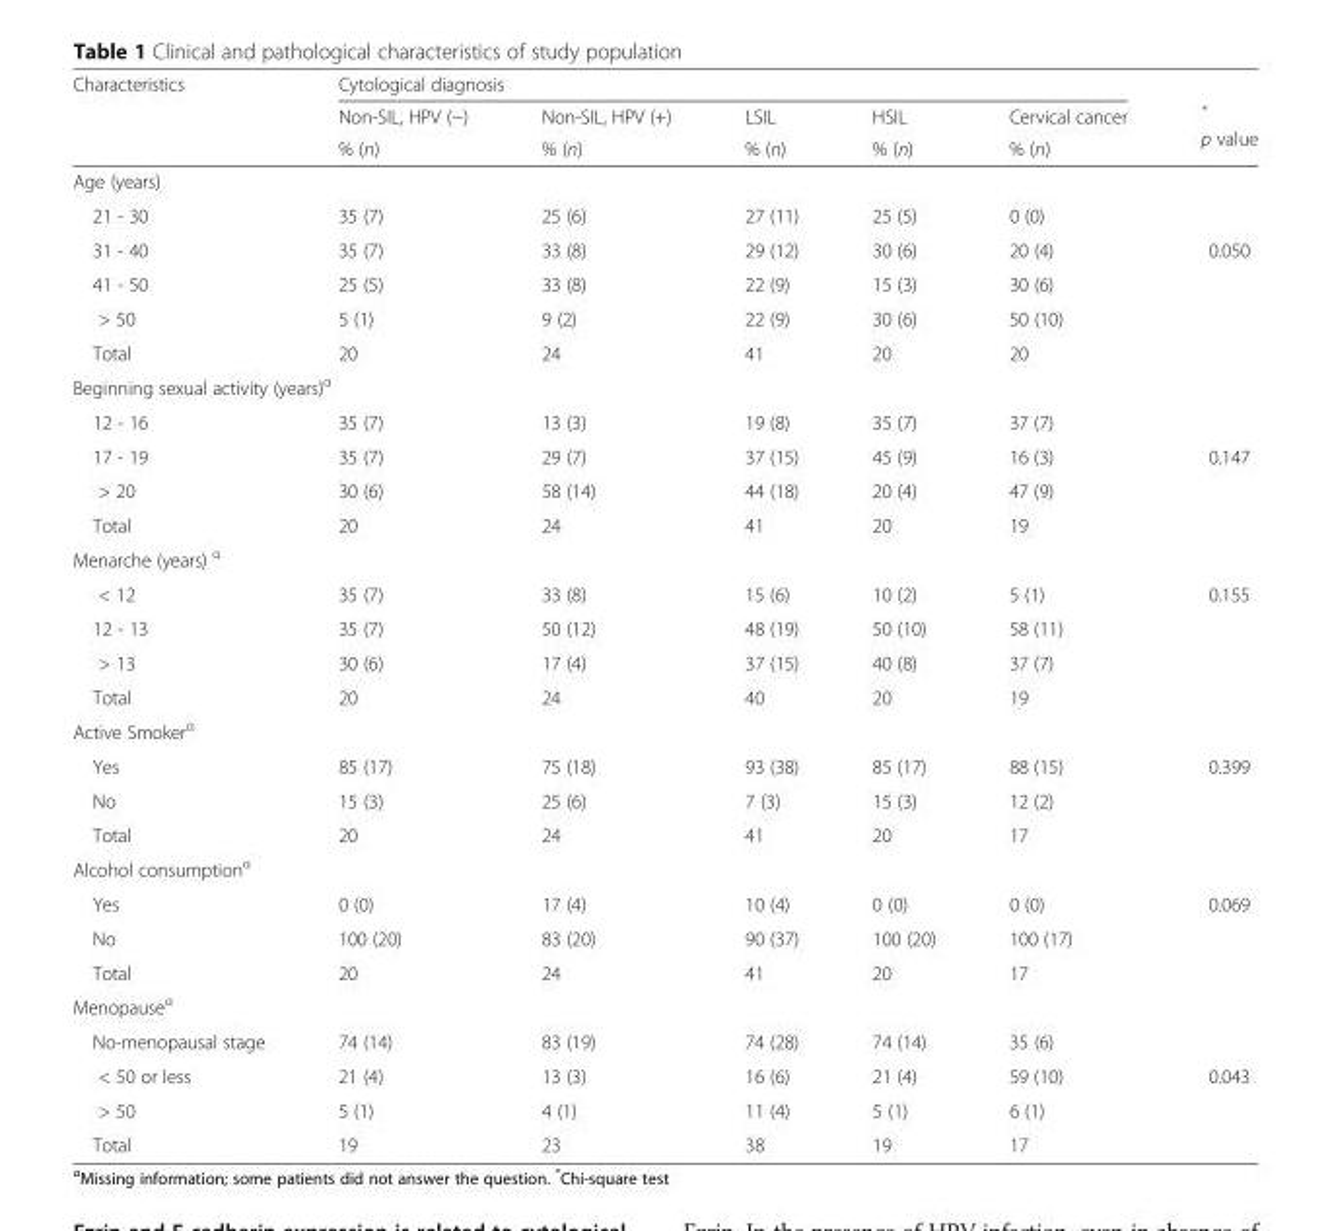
<table><thead><tr><td rowspan="3">Characteristics</td><td colspan="5">Cytological diagnosis</td><td rowspan="3">* p value</td></tr><tr><td rowspan="2">Non-SIL, HPV (−) % (n)</td><td rowspan="2">Non-SIL, HPV (+) % (n)</td><td rowspan="2">LSIL % (n)</td><td rowspan="2">HSIL % (n)</td><td rowspan="2">Cervical cancer % (n)</td></tr><tr></tr></thead><tbody><tr><td colspan="7">Age (years)</td></tr><tr><td>21 - 30</td><td>35 (7)</td><td>25 (6)</td><td>27 (11)</td><td>25 (5)</td><td>0 (0)</td><td></td></tr><tr><td>31 - 40</td><td>35 (7)</td><td>33 (8)</td><td>29 (12)</td><td>30 (6)</td><td>20 (4)</td><td>0.050</td></tr><tr><td>41 - 50</td><td>25 (5)</td><td>33 (8)</td><td>22 (9)</td><td>15 (3)</td><td>30 (6)</td><td></td></tr><tr><td>&gt; 50</td><td>5 (1)</td><td>9 (2)</td><td>22 (9)</td><td>30 (6)</td><td>50 (10)</td><td></td></tr><tr><td>Total</td><td>20</td><td>24</td><td>41</td><td>20</td><td>20</td><td></td></tr><tr><td colspan="7">Beginning sexual activity (years)<sup>α</sup></td></tr><tr><td>12 - 16</td><td>35 (7)</td><td>13 (3)</td><td>19 (8)</td><td>35 (7)</td><td>37 (7)</td><td></td></tr><tr><td>17 - 19</td><td>35 (7)</td><td>29 (7)</td><td>37 (15)</td><td>45 (9)</td><td>16 (3)</td><td>0.147</td></tr><tr><td>&gt; 20</td><td>30 (6)</td><td>58 (14)</td><td>44 (18)</td><td>20 (4)</td><td>47 (9)</td><td></td></tr><tr><td>Total</td><td>20</td><td>24</td><td>41</td><td>20</td><td>19</td><td></td></tr><tr><td colspan="7">Menarche (years) <sup>α</sup></td></tr><tr><td>&lt; 12</td><td>35 (7)</td><td>33 (8)</td><td>15 (6)</td><td>10 (2)</td><td>5 (1)</td><td rowspan="3">0.155</td></tr><tr><td>12 - 13</td><td>35 (7)</td><td>50 (12)</td><td>48 (19)</td><td>50 (10)</td><td>58 (11)</td></tr><tr><td>&gt; 13</td><td>30 (6)</td><td>17 (4)</td><td>37 (15)</td><td>40 (8)</td><td>37 (7)</td></tr><tr><td>Total</td><td>20</td><td>24</td><td>40</td><td>20</td><td>19</td><td></td></tr><tr><td colspan="7">Active Smoker<sup>α</sup></td></tr><tr><td>Yes</td><td>85 (17)</td><td>75 (18)</td><td>93 (38)</td><td>85 (17)</td><td>88 (15)</td><td rowspan="2">0.399</td></tr><tr><td>No</td><td>15 (3)</td><td>25 (6)</td><td>7 (3)</td><td>15 (3)</td><td>12 (2)</td></tr><tr><td>Total</td><td>20</td><td>24</td><td>41</td><td>20</td><td>17</td><td></td></tr><tr><td colspan="7">Alcohol consumption<sup>α</sup></td></tr><tr><td>Yes</td><td>0 (0)</td><td>17 (4)</td><td>10 (4)</td><td>0 (0)</td><td>0 (0)</td><td rowspan="2">0.069</td></tr><tr><td>No</td><td>100 (20)</td><td>83 (20)</td><td>90 (37)</td><td>100 (20)</td><td>100 (17)</td></tr><tr><td>Total</td><td>20</td><td>24</td><td>41</td><td>20</td><td>17</td><td></td></tr><tr><td colspan="7">Menopause<sup>α</sup></td></tr><tr><td>No-menopausal stage</td><td>74 (14)</td><td>83 (19)</td><td>74 (28)</td><td>74 (14)</td><td>35 (6)</td><td></td></tr><tr><td>&lt; 50 or less</td><td>21 (4)</td><td>13 (3)</td><td>16 (6)</td><td>21 (4)</td><td>59 (10)</td><td>0.043</td></tr><tr><td>&gt; 50</td><td>5 (1)</td><td>4 (1)</td><td>11 (4)</td><td>5 (1)</td><td>6 (1)</td><td></td></tr><tr><td>Total</td><td>19</td><td>23</td><td>38</td><td>19</td><td>17</td><td></td></tr></tbody></table>